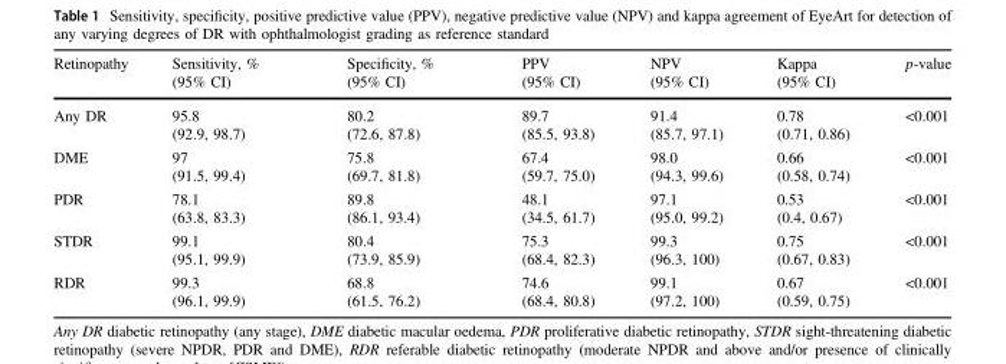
<table><thead><tr><td>Retinopathy</td><td>Sensitivity, % (95% CI)</td><td>Specificity, % (95% CI)</td><td>PPV (95% CI)</td><td>NPV (95% CI)</td><td>Kappa (95% CI)</td><td>p-value</td></tr></thead><tbody><tr><td>Any DR</td><td>95.8 (92.9, 98.7)</td><td>80.2 (72.6, 87.8)</td><td>89.7 (85.5, 93.8)</td><td>91.4 (85.7, 97.1)</td><td>0.78 (0.71, 0.86)</td><td>&lt;0.001</td></tr><tr><td>DME</td><td>97 (91.5, 99.4)</td><td>75.8 (69.7, 81.8)</td><td>67.4 (59.7, 75.0)</td><td>98.0 (94.3, 99.6)</td><td>0.66 (0.58, 0.74)</td><td>&lt;0.001</td></tr><tr><td>PDR</td><td>78.1 (63.8, 83.3)</td><td>89.8 (86.1, 93.4)</td><td>48.1 (34.5, 61.7)</td><td>97.1 (95.0, 99.2)</td><td>0.53 (0.4, 0.67)</td><td>&lt;0.001</td></tr><tr><td>STDR</td><td>99.1 (95.1, 99.9)</td><td>80.4 (73.9, 85.9)</td><td>75.3 (68.4, 82.3)</td><td>99.3 (96.3, 100)</td><td>0.75 (0.67, 0.83)</td><td>&lt;0.001</td></tr><tr><td>RDR</td><td>99.3 (96.1, 99.9)</td><td>68.8 (61.5, 76.2)</td><td>74.6 (68.4, 80.8)</td><td>99.1 (97.2, 100)</td><td>0.67 (0.59, 0.75)</td><td>&lt;0.001</td></tr></tbody></table>